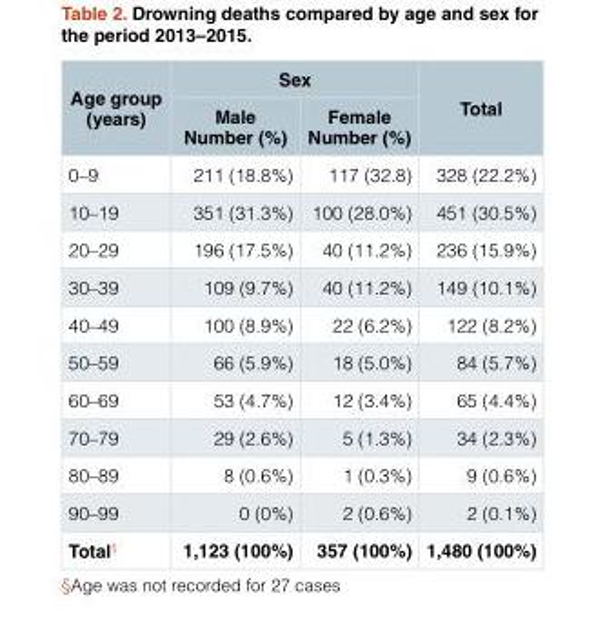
<table><thead><tr><td rowspan="2">Age group (years)</td><td colspan="2">Sex</td><td rowspan="2">Total</td></tr><tr><td>Male Number (%)</td><td>Female Number (%)</td></tr></thead><tbody><tr><td>0–9</td><td>211 (18.8%)</td><td>117 (32.8)</td><td>328 (22.2%)</td></tr><tr><td>10–19</td><td>351 (31.3%)</td><td>100 (28.0%)</td><td>451 (30.5%)</td></tr><tr><td>20–29</td><td>196 (17.5%)</td><td>40 (11.2%)</td><td>236 (15.9%)</td></tr><tr><td>30–39</td><td>109 (9.7%)</td><td>40 (11.2%)</td><td>149 (10.1%)</td></tr><tr><td>40–49</td><td>100 (8.9%)</td><td>22 (6.2%)</td><td>122 (8.2%)</td></tr><tr><td>50–59</td><td>66 (5.9%)</td><td>18 (5.0%)</td><td>84 (5.7%)</td></tr><tr><td>60–69</td><td>53 (4.7%)</td><td>12 (3.4%)</td><td>65 (4.4%)</td></tr><tr><td>70–79</td><td>29 (2.6%)</td><td>5 (1.3%)</td><td>34 (2.3%)</td></tr><tr><td>80–89</td><td>8 (0.6%)</td><td>1 (0.3%)</td><td>9 (0.6%)</td></tr><tr><td>90–99</td><td>0 (0%)</td><td>2 (0.6%)</td><td>2 (0.1%)</td></tr><tr><td>Total<sup>§</sup></td><td>1,123 (100%)</td><td>357 (100%)</td><td>1,480 (100%)</td></tr></tbody></table>